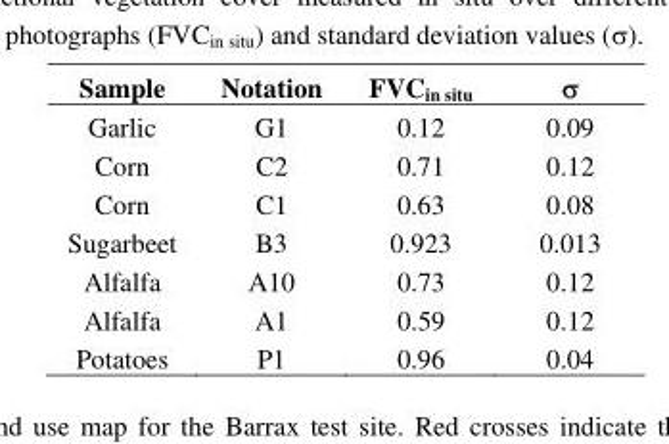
<table><thead><tr><td>Sample</td><td>Notation</td><td>FVC<sub>in situ</sub></td><td></td></tr></thead><tbody><tr><td>Garlic</td><td>G1</td><td>0.12</td><td>0.09</td></tr><tr><td>Corn</td><td>C2</td><td>0.71</td><td>0.12</td></tr><tr><td>Corn</td><td>C1</td><td>0.63</td><td>0.08</td></tr><tr><td>Sugarbeet</td><td>B3</td><td>0.923</td><td>0.013</td></tr><tr><td>Alfalfa</td><td>A10</td><td>0.73</td><td>0.12</td></tr><tr><td>Alfalfa</td><td>A1</td><td>0.59</td><td>0.12</td></tr><tr><td>Potatoes</td><td>P1</td><td>0.96</td><td>0.04</td></tr></tbody></table>